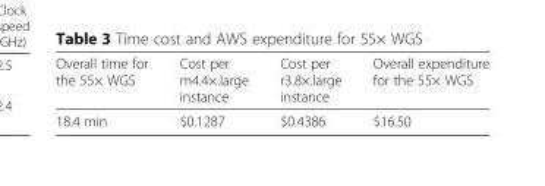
<table><thead><tr><td>Overall time for the 55× WGS</td><td>Cost per m4.4×.large instance</td><td>Cost per r3.8×.large instance</td><td>Overall expenditure for the 55× WGS</td></tr></thead><tbody><tr><td>18.4 min</td><td>$0.1287</td><td>$0.4386</td><td>$16.50</td></tr></tbody></table>